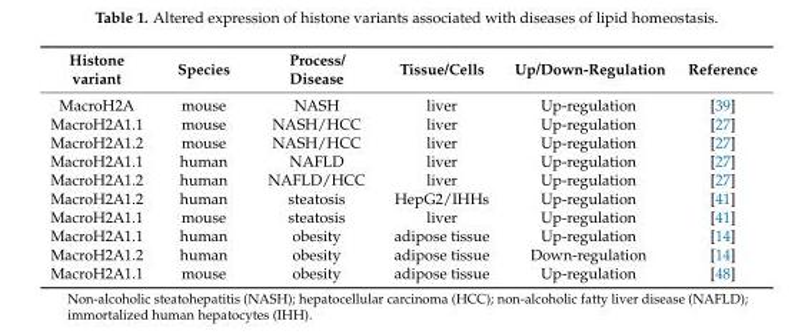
<table><thead><tr><td>Histone variant</td><td>Species</td><td>Process/ Disease</td><td>Tissue/Cells</td><td>Up/Down-Regulation</td><td>Reference</td></tr></thead><tbody><tr><td>MacroH2A</td><td>mouse</td><td>NASH</td><td>liver</td><td>Up-regulation</td><td>[39]</td></tr><tr><td>MacroH2A1.1</td><td>mouse</td><td>NASH/HCC</td><td>liver</td><td>Up-regulation</td><td>[27]</td></tr><tr><td>MacroH2A1.2</td><td>mouse</td><td>NASH/HCC</td><td>liver</td><td>Up-regulation</td><td>[27]</td></tr><tr><td>MacroH2A1.1</td><td>human</td><td>NAFLD</td><td>liver</td><td>Up-regulation</td><td>[27]</td></tr><tr><td>MacroH2A1.2</td><td>human</td><td>NAFLD/HCC</td><td>liver</td><td>Up-regulation</td><td>[27]</td></tr><tr><td>MacroH2A1.2</td><td>human</td><td>steatosis</td><td>HepG2/IHHs</td><td>Up-regulation</td><td>[41]</td></tr><tr><td>MacroH2A1.1</td><td>mouse</td><td>steatosis</td><td>liver</td><td>Up-regulation</td><td>[41]</td></tr><tr><td>MacroH2A1.1</td><td>human</td><td>obesity</td><td>adipose tissue</td><td>Up-regulation</td><td>[14]</td></tr><tr><td>MacroH2A1.2</td><td>human</td><td>obesity</td><td>adipose tissue</td><td>Down-regulation</td><td>[14]</td></tr><tr><td>MacroH2A1.1</td><td>mouse</td><td>obesity</td><td>adipose tissue</td><td>Up-regulation</td><td>[48]</td></tr></tbody></table>